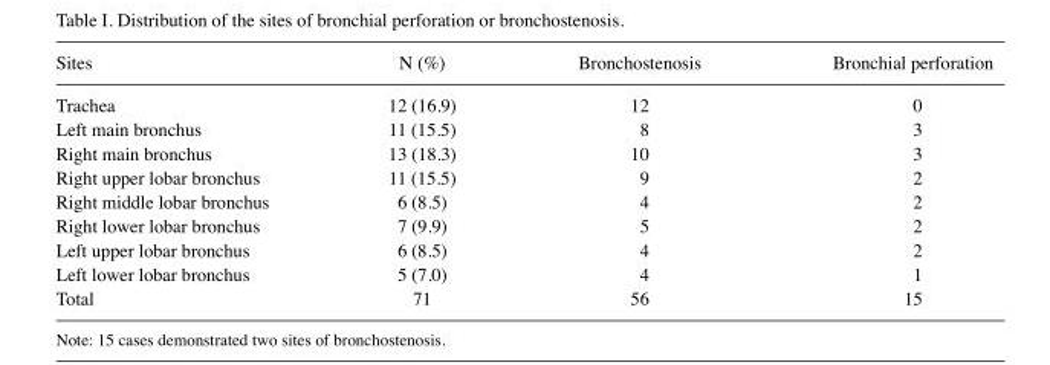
<table><thead><tr><td>Sites</td><td>N (%)</td><td>Bronchostenosis</td><td>Bronchial perforation</td></tr></thead><tbody><tr><td>Trachea</td><td>12 (16.9)</td><td>12</td><td>0</td></tr><tr><td>Left main bronchus</td><td>11 (15.5)</td><td>8</td><td>3</td></tr><tr><td>Right main bronchus</td><td>13 (18.3)</td><td>10</td><td>3</td></tr><tr><td>Right upper lobar bronchus</td><td>11 (15.5)</td><td>9</td><td>2</td></tr><tr><td>Right middle lobar bronchus</td><td>6 (8.5)</td><td>4</td><td>2</td></tr><tr><td>Right lower lobar bronchus</td><td>7 (9.9)</td><td>5</td><td>2</td></tr><tr><td>Left upper lobar bronchus</td><td>6 (8.5)</td><td>4</td><td>2</td></tr><tr><td>Left lower lobar bronchus</td><td>5 (7.0)</td><td>4</td><td>1</td></tr><tr><td>Total</td><td>71</td><td>56</td><td>15</td></tr></tbody></table>